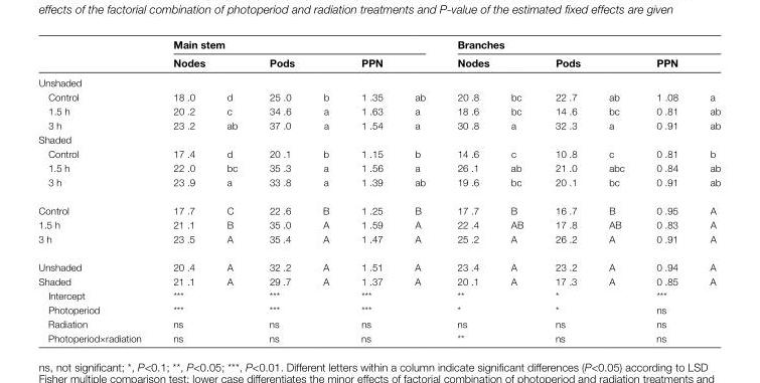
<table><thead><tr><td rowspan="2"></td><td colspan="6">Main stem</td><td colspan="6">Branches</td></tr><tr><td colspan="2">Nodes</td><td colspan="2">Pods</td><td colspan="2">PPN</td><td colspan="2">Nodes</td><td colspan="2">Pods</td><td colspan="2">PPN</td></tr><tr><td colspan="13">Unshaded</td></tr><tr><td>Control</td><td>18 .0</td><td>d</td><td>25 .0</td><td>b</td><td>1 .35</td><td>ab</td><td>20 .8</td><td>bc</td><td>22 .7</td><td>ab</td><td>1 .08</td><td>a</td></tr></thead><tbody><tr><td>1.5 h</td><td>20 .2</td><td>c</td><td>34 .6</td><td>a</td><td>1 .63</td><td>a</td><td>18 .6</td><td>bc</td><td>14 .6</td><td>bc</td><td>0 .81</td><td>ab</td></tr><tr><td>3 h</td><td>23 .2</td><td>ab</td><td>37 .0</td><td>a</td><td>1 .54</td><td>a</td><td>30 .8</td><td>a</td><td>32 .3</td><td>a</td><td>0 .91</td><td>ab</td></tr><tr><td colspan="13">Shaded</td></tr><tr><td>Control</td><td>17 .4</td><td>d</td><td>20 .1</td><td>b</td><td>1 .15</td><td>b</td><td>14 .6</td><td>c</td><td>10 .8</td><td>c</td><td>0 .81</td><td>b</td></tr><tr><td>1.5 h</td><td>22 .0</td><td>bc</td><td>35 .3</td><td>a</td><td>1 .56</td><td>a</td><td>26 .1</td><td>ab</td><td>21 .0</td><td>abc</td><td>0 .84</td><td>ab</td></tr><tr><td>3 h</td><td>23 .9</td><td>a</td><td>33 .8</td><td>a</td><td>1 .39</td><td>ab</td><td>19 .6</td><td>bc</td><td>20 .1</td><td>bc</td><td>0 .91</td><td>ab</td></tr><tr><td>Control</td><td>17 .7</td><td>C</td><td>22 .6</td><td>B</td><td>1 .25</td><td>B</td><td>17 .7</td><td>B</td><td>16 .7</td><td>B</td><td>0 .95</td><td>A</td></tr><tr><td>1.5 h</td><td>21 .1</td><td>B</td><td>35 .0</td><td>A</td><td>1 .59</td><td>A</td><td>22 .4</td><td>AB</td><td>17 .8</td><td>AB</td><td>0 .83</td><td>A</td></tr><tr><td>3 h</td><td>23 .5</td><td>A</td><td>35 .4</td><td>A</td><td>1 .47</td><td>A</td><td>25 .2</td><td>A</td><td>26 .2</td><td>A</td><td>0 .91</td><td>A</td></tr><tr><td>Unshaded</td><td>20 .4</td><td>A</td><td>32 .2</td><td>A</td><td>1 .51</td><td>A</td><td>23 .4</td><td>A</td><td>23 .2</td><td>A</td><td>0 .94</td><td>A</td></tr><tr><td>Shaded</td><td>21 .1</td><td>A</td><td>29 .7</td><td>A</td><td>1 .37</td><td>A</td><td>20 .1</td><td>A</td><td>17 .3</td><td>A</td><td>0 .85</td><td>A</td></tr><tr><td>Intercept</td><td colspan="2">***</td><td colspan="2">***</td><td colspan="2">***</td><td colspan="2">**</td><td colspan="2">*</td><td colspan="2">***</td></tr><tr><td>Photoperiod</td><td colspan="2">***</td><td colspan="2">***</td><td colspan="2">***</td><td colspan="2">*</td><td colspan="2">*</td><td colspan="2">ns</td></tr><tr><td>Radiation</td><td colspan="2">ns</td><td colspan="2">ns</td><td colspan="2">ns</td><td colspan="2">ns</td><td colspan="2">ns</td><td colspan="2">ns</td></tr><tr><td>Photoperiod×radiation</td><td colspan="2">ns</td><td colspan="2">ns</td><td colspan="2">ns</td><td colspan="2">**</td><td colspan="2">ns</td><td colspan="2">ns</td></tr></tbody></table>